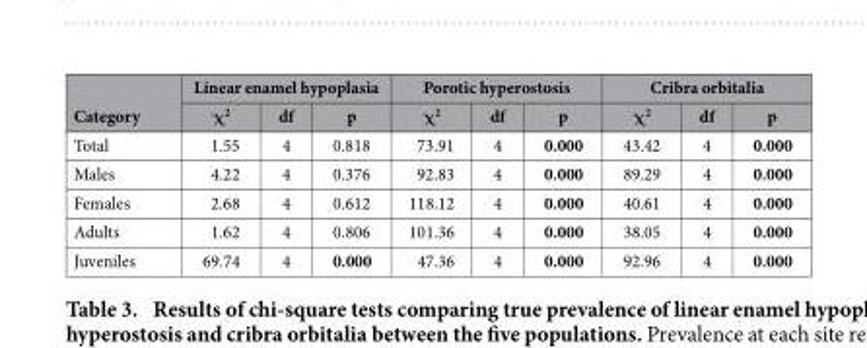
<table><thead><tr><td rowspan="2">Category</td><td colspan="3">Linear enamel hypoplasia</td><td colspan="3">Porotic hyperostosis</td><td colspan="3">Cribra orbitalia</td></tr><tr><td>χ<sup>2</sup></td><td>df</td><td>p</td><td>χ<sup>2</sup></td><td>df</td><td>p</td><td>χ<sup>2</sup></td><td>df</td><td>p</td></tr></thead><tbody><tr><td>Total</td><td>1.55</td><td>4</td><td>0.818</td><td>73.91</td><td>4</td><td>0.000</td><td>43.42</td><td>4</td><td>0.000</td></tr><tr><td>Males</td><td>4.22</td><td>4</td><td>0.376</td><td>92.83</td><td>4</td><td>0.000</td><td>89.29</td><td>4</td><td>0.000</td></tr><tr><td>Females</td><td>2.68</td><td>4</td><td>0.612</td><td>118.12</td><td>4</td><td>0.000</td><td>40.61</td><td>4</td><td>0.000</td></tr><tr><td>Adults</td><td>1.62</td><td>4</td><td>0.806</td><td>101.36</td><td>4</td><td>0.000</td><td>38.05</td><td>4</td><td>0.000</td></tr><tr><td>Juveniles</td><td>69.74</td><td>4</td><td>0.000</td><td>47.36</td><td>4</td><td>0.000</td><td>92.96</td><td>4</td><td>0.000</td></tr></tbody></table>